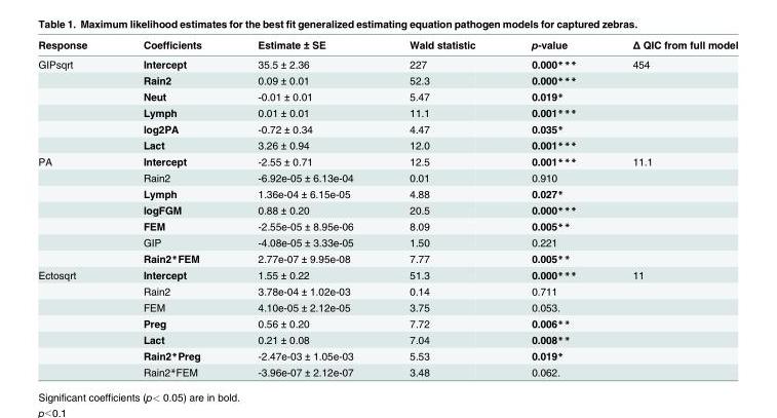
<table><thead><tr><td>Response</td><td>Coefficients</td><td>Estimate ± SE</td><td>Wald statistic</td><td>p-value</td><td>Δ QIC from full model</td></tr></thead><tbody><tr><td rowspan="6">GIPsqrt</td><td>Intercept</td><td>35.5 ± 2.36</td><td>227</td><td>0.000***</td><td>454</td></tr><tr><td>Rain2</td><td>0.09 ± 0.01</td><td>52.3</td><td>0.000***</td><td></td></tr><tr><td>Neut</td><td>-0.01 ± 0.01</td><td>5.47</td><td>0.019*</td><td></td></tr><tr><td>Lymph</td><td>0.01 ± 0.01</td><td>11.1</td><td>0.001***</td><td></td></tr><tr><td>log2PA</td><td>-0.72 ± 0.34</td><td>4.47</td><td>0.035*</td><td></td></tr><tr><td>Lact</td><td>3.26 ± 0.94</td><td>12.0</td><td>0.001***</td><td></td></tr><tr><td rowspan="7">PA</td><td>Intercept</td><td>-2.55 ± 0.71</td><td>12.5</td><td>0.001***</td><td>11.1</td></tr><tr><td>Rain2</td><td>-6.92e-05 ± 6.13e-04</td><td>0.01</td><td>0.910</td><td></td></tr><tr><td>Lymph</td><td>1.36e-04 ± 6.15e-05</td><td>4.88</td><td>0.027*</td><td></td></tr><tr><td>logFGM</td><td>0.88 ± 0.20</td><td>20.5</td><td>0.000***</td><td></td></tr><tr><td>FEM</td><td>-2.55e-05 ± 8.95e-06</td><td>8.09</td><td>0.005**</td><td></td></tr><tr><td>GIP</td><td>-4.08e-05 ± 3.33e-05</td><td>1.50</td><td>0.221</td><td></td></tr><tr><td>Rain2*FEM</td><td>2.77e-07 ± 9.95e-08</td><td>7.77</td><td>0.005**</td><td></td></tr><tr><td rowspan="7">Ectosqrt</td><td>Intercept</td><td>1.55 ± 0.22</td><td>51.3</td><td>0.000***</td><td>11</td></tr><tr><td>Rain2</td><td>3.78e-04 ± 1.02e-03</td><td>0.14</td><td>0.711</td><td></td></tr><tr><td>FEM</td><td>4.10e-05 ± 2.12e-05</td><td>3.75</td><td>0.053.</td><td></td></tr><tr><td>Preg</td><td>0.56 ± 0.20</td><td>7.72</td><td>0.006**</td><td></td></tr><tr><td>Lact</td><td>0.21 ± 0.08</td><td>7.04</td><td>0.008**</td><td></td></tr><tr><td>Rain2*Preg</td><td>-2.47e-03 ± 1.05e-03</td><td>5.53</td><td>0.019*</td><td></td></tr><tr><td>Rain2*FEM</td><td>-3.96e-07 ± 2.12e-07</td><td>3.48</td><td>0.062.</td><td></td></tr></tbody></table>